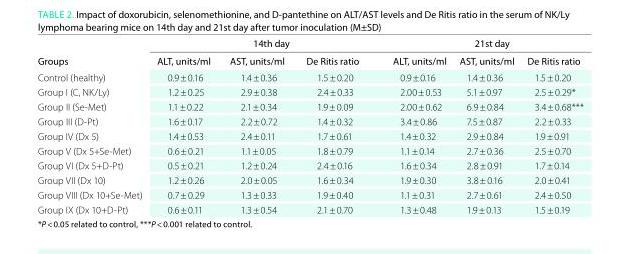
<table><thead><tr><td rowspan="2">Groups</td><td colspan="3">14th day</td><td colspan="3">21st day</td></tr><tr><td>ALt, units/ml</td><td>ASt, units/ml</td><td>de Ritis ratio</td><td>ALt, units/ml</td><td>ASt, units/ml</td><td>de Ritis ratio</td></tr></thead><tbody><tr><td>Control (healthy)</td><td>0.9 ± 0.16</td><td>1.4 ± 0.36</td><td>1.5 ± 0.20</td><td>0.9 ± 0.16</td><td>1.4 ± 0.36</td><td>1.5 ± 0.20</td></tr><tr><td>Group I (C, NK/Ly)</td><td>1.2 ± 0.25</td><td>2.9 ± 0.38</td><td>2.4 ± 0.33</td><td>2.00 ± 0.53</td><td>5.1 ± 0.97</td><td>2.5 ± 0.29*</td></tr><tr><td>Group II (Se-Met)</td><td>1.1 ± 0.22</td><td>2.1 ± 0.34</td><td>1.9 ± 0.09</td><td>2.00 ± 0.62</td><td>6.9 ± 0.84</td><td>3.4 ± 0.68***</td></tr><tr><td>Group III (D-Pt)</td><td>1.6 ± 0.17</td><td>2.2 ± 0.72</td><td>1.4 ± 0.32</td><td>3.4 ± 0.86</td><td>7.5 ± 0.87</td><td>2.2 ± 0.33</td></tr><tr><td>Group IV (Dx 5)</td><td>1.4 ± 0.53</td><td>2.4 ± 0.11</td><td>1.7 ± 0.61</td><td>1.4 ± 0.32</td><td>2.9 ± 0.84</td><td>1.9 ± 0.91</td></tr><tr><td>Group V (Dx 5+Se-Met)</td><td>0.6 ± 0.21</td><td>1.1 ± 0.05</td><td>1.8 ± 0.79</td><td>1.1 ± 0.14</td><td>2.7 ± 0.36</td><td>2.5 ± 0.70</td></tr><tr><td>Group VI (Dx 5+D-Pt)</td><td>0.5 ± 0.21</td><td>1.2 ± 0.24</td><td>2.4 ± 0.16</td><td>1.6 ± 0.34</td><td>2.8 ± 0.91</td><td>1.7 ± 0.14</td></tr><tr><td>Group VII (Dx 10)</td><td>1.2 ± 0.26</td><td>2.0 ± 0.05</td><td>1.6 ± 0.34</td><td>1.9 ± 0.30</td><td>3.8 ± 0.16</td><td>2.0 ± 0.41</td></tr><tr><td>Group VIII (Dx 10+Se-Met)</td><td>0.7 ± 0.29</td><td>1.3 ± 0.33</td><td>1.9 ± 0.40</td><td>1.1 ± 0.31</td><td>2.7 ± 0.61</td><td>2.4 ± 0.50</td></tr><tr><td>Group IX (Dx 10+D-Pt)</td><td>0.6 ± 0.11</td><td>1.3 ± 0.54</td><td>2.1 ± 0.70</td><td>1.3 ± 0.48</td><td>1.9 ± 0.13</td><td>1.5 ± 0.19</td></tr></tbody></table>